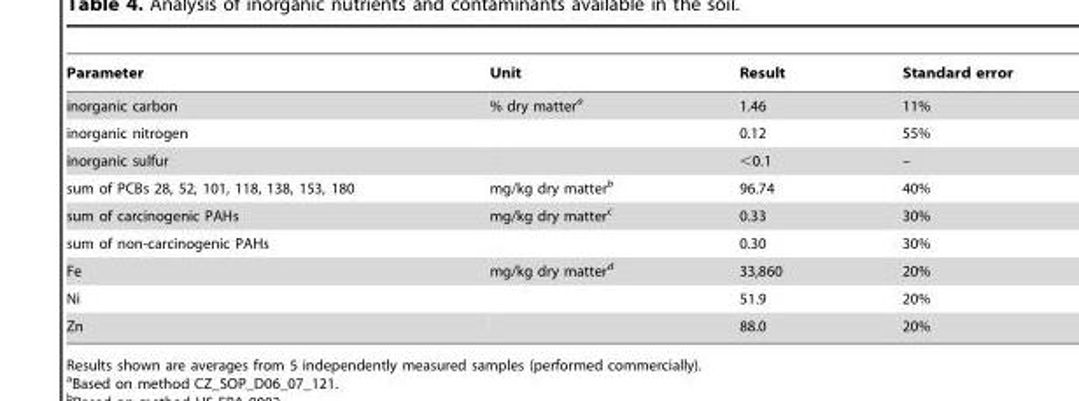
<table><thead><tr><td>Parameter</td><td>Unit</td><td>Result</td><td>Standard error</td></tr></thead><tbody><tr><td>inorganic carbon</td><td>% dry matter<sup>a</sup></td><td>1.46</td><td>11%</td></tr><tr><td>inorganic nitrogen</td><td></td><td>0.12</td><td>55%</td></tr><tr><td>inorganic sulfur</td><td></td><td>&lt;0.1</td><td>–</td></tr><tr><td>sum of PCBs 28, 52, 101, 118, 138, 153, 180</td><td>mg/kg dry matter<sup>b</sup></td><td>96.74</td><td>40%</td></tr><tr><td>sum of carcinogenic PAHs</td><td>mg/kg dry matter<sup>c</sup></td><td>0.33</td><td>30%</td></tr><tr><td>sum of non-carcinogenic PAHs</td><td></td><td>0.30</td><td>30%</td></tr><tr><td>Fe</td><td>mg/kg dry matter<sup>d</sup></td><td>33,860</td><td>20%</td></tr><tr><td>Ni</td><td></td><td>51.9</td><td>20%</td></tr><tr><td>Zn</td><td></td><td>88.0</td><td>20%</td></tr></tbody></table>